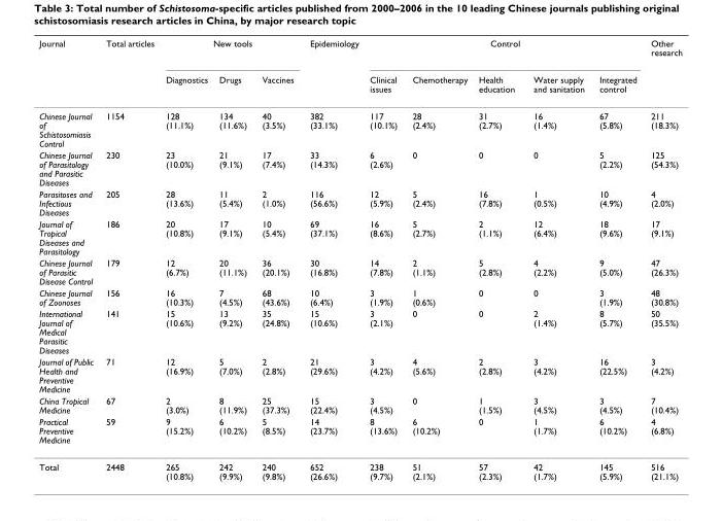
<table><thead><tr><td rowspan="2">Journal</td><td rowspan="2">Total articles</td><td colspan="3">New tools</td><td rowspan="2">Epidemiology</td><td colspan="5">Control</td><td rowspan="2">Other research</td></tr><tr><td>Diagnostics</td><td>Drugs</td><td>Vaccines</td><td>Clinical issues</td><td>Chemotherapy</td><td>Health education</td><td>Water supply and sanitation</td><td>Integrated control</td></tr></thead><tbody><tr><td>Chinese Journal of Schistosomiasis Control</td><td>1154</td><td>128 (11.1%)</td><td>134 (11.6%)</td><td>40 (3.5%)</td><td>382 (33.1%)</td><td>117 (10.1%)</td><td>28 (2.4%)</td><td>31 (2.7%)</td><td>16 (1.4%)</td><td>67 (5.8%)</td><td>211 (18.3%)</td></tr><tr><td>Chinese Journal of Parasitology and Parasitic Diseases</td><td>230</td><td>23 (10.0%)</td><td>21 (9.1%)</td><td>17 (7.4%)</td><td>33 (14.3%)</td><td>6 (2.6%)</td><td>0</td><td>0</td><td>0</td><td>5 (2.2%)</td><td>125 (54.3%)</td></tr><tr><td>Parasitoses and Infectious Diseases</td><td>205</td><td>28 (13.6%)</td><td>11 (5.4%)</td><td>2 (1.0%)</td><td>116 (56.6%)</td><td>12 (5.9%)</td><td>5 (2.4%)</td><td>16 (7.8%)</td><td>1 (0.5%)</td><td>10 (4.9%)</td><td>4 (2.0%)</td></tr><tr><td>Journal of Tropical Diseases and Parasitology</td><td>186</td><td>20 (10.8%)</td><td>17 (9.1%)</td><td>10 (5.4%)</td><td>69 (37.1%)</td><td>16 (8.6%)</td><td>5 (2.7%)</td><td>2 (1.1%)</td><td>12 (6.4%)</td><td>18 (9.6%)</td><td>17 (9.1%)</td></tr><tr><td>Chinese Journal of Parasitic Disease Control</td><td>179</td><td>12 (6.7%)</td><td>20 (11.1%)</td><td>36 (20.1%)</td><td>30 (16.8%)</td><td>14 (7.8%)</td><td>2 (1.1%)</td><td>5 (2.8%)</td><td>4 (2.2%)</td><td>9 (5.0%)</td><td>47 (26.3%)</td></tr><tr><td>Chinese Journal of Zoonoses</td><td>156</td><td>16 (10.3%)</td><td>7 (4.5%)</td><td>68 (43.6%)</td><td>10 (6.4%)</td><td>3 (1.9%)</td><td>1 (0.6%)</td><td>0</td><td>0</td><td>3 (1.9%)</td><td>48 (30.8%)</td></tr><tr><td>International Journal of Medical Parasitic Diseases</td><td>141</td><td>15 (10.6%)</td><td>13 (9.2%)</td><td>35 (24.8%)</td><td>15 (10.6%)</td><td>3 (2.1%)</td><td>0</td><td>0</td><td>2 (1.4%)</td><td>8 (5.7%)</td><td>50 (35.5%)</td></tr><tr><td>Journal of Public Health and Preventive Medicine</td><td>71</td><td>12 (16.9%)</td><td>5 (7.0%)</td><td>2 (2.8%)</td><td>21 (29.6%)</td><td>3 (4.2%)</td><td>4 (5.6%)</td><td>2 (2.8%)</td><td>3 (4.2%)</td><td>16 (22.5%)</td><td>3 (4.2%)</td></tr><tr><td>China Tropical Medicine</td><td>67</td><td>2 (3.0%)</td><td>8 (11.9%)</td><td>25 (37.3%)</td><td>15 (22.4%)</td><td>3 (4.5%)</td><td>0</td><td>1 (1.5%)</td><td>3 (4.5%)</td><td>3 (4.5%)</td><td>7 (10.4%)</td></tr><tr><td>Practical Preventive Medicine</td><td>59</td><td>9 (15.2%)</td><td>6 (10.2%)</td><td>5 (8.5%)</td><td>14 (23.7%)</td><td>8 (13.6%)</td><td>6 (10.2%)</td><td>0</td><td>1 (1.7%)</td><td>6 (10.2%)</td><td>4 (6.8%)</td></tr><tr><td>Total</td><td>2448</td><td>265 (10.8%)</td><td>242 (9.9%)</td><td>240 (9.8%)</td><td>652 (26.6%)</td><td>238 (9.7%)</td><td>51 (2.1%)</td><td>57 (2.3%)</td><td>42 (1.7%)</td><td>145 (5.9%)</td><td>516 (21.1%)</td></tr></tbody></table>